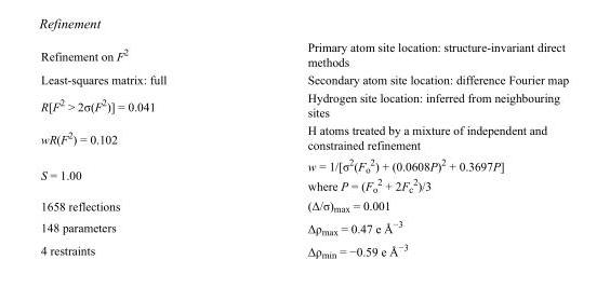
<table><tbody><tr><td>Refinement on F<sup>2</sup></td><td>Primary atom site location: structure-invariant direct methods</td></tr><tr><td>Least-squares matrix: full</td><td>Secondary atom site location: difference Fourier map</td></tr><tr><td>R[F<sup>2</sup> &gt; 2σ(F<sup>2</sup>)] = 0.041</td><td>Hydrogen site location: inferred from neighbouring sites</td></tr><tr><td>wR(F<sup>2</sup>) = 0.102</td><td>H atoms treated by a mixture of independent and constrained refinement</td></tr><tr><td>S = 1.00</td><td>w = 1/[σ<sup>2</sup>(F<sub>o</sub> <sup>2</sup>) + (0.0608P)<sup>2</sup> + 0.3697P] where P = (F<sub>o</sub> <sup>2</sup> + 2F<sub>c</sub> <sup>2</sup>)/3</td></tr><tr><td>1658 reflections</td><td>(Δ/σ)<sub>max</sub> = 0.001</td></tr><tr><td>148 parameters</td><td>Δρ<sub>max</sub> = 0.47 e Å<sup>−3</sup></td></tr><tr><td>4 restraints</td><td>Δρ<sub>min</sub> = −0.59 e Å<sup>−3</sup></td></tr></tbody></table>